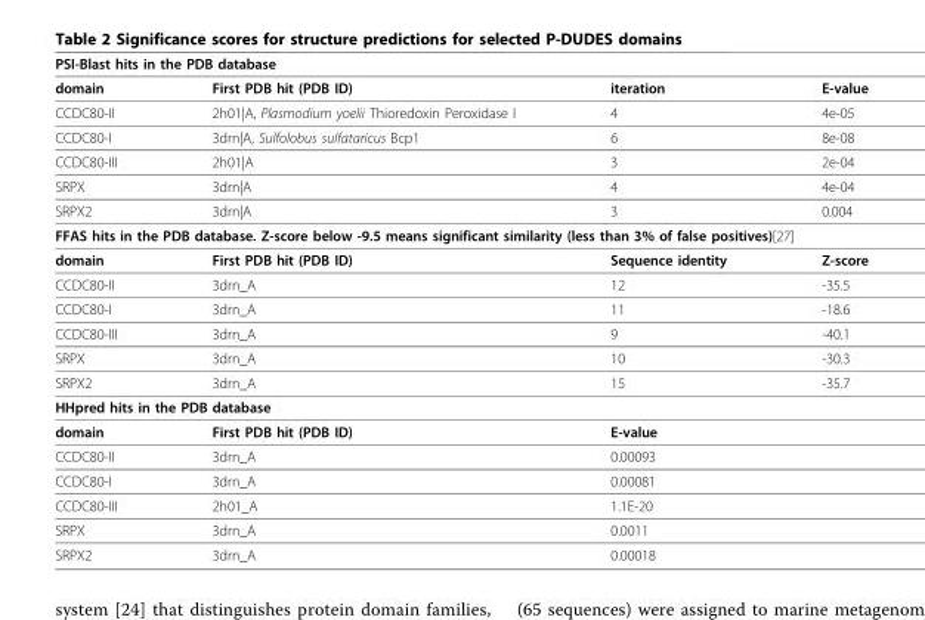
<table><thead><tr><td colspan="4">PSI-Blast hits in the PDB database</td></tr><tr><td>domain</td><td>First PDB hit (PDB ID)</td><td>iteration</td><td>E-value</td></tr></thead><tbody><tr><td>CCDC80-II</td><td>2h01|A, Plasmodium yoelii Thioredoxin Peroxidase I</td><td>4</td><td>4e-05</td></tr><tr><td>CCDC80-I</td><td>3drn|A, Sulfolobus sulfataricus Bcp1</td><td>6</td><td>8e-08</td></tr><tr><td>CCDC80-III</td><td>2h01|A</td><td>3</td><td>2e-04</td></tr><tr><td>SRPX</td><td>3drn|A</td><td>4</td><td>4e-04</td></tr><tr><td>SRPX2</td><td>3drn|A</td><td>3</td><td>0.004</td></tr><tr><td colspan="4">FFAS hits in the PDB database. Z-score below -9.5 means significant similarity (less than 3% of false positives)[27]</td></tr><tr><td>domain</td><td>First PDB hit (PDB ID)</td><td>Sequence identity</td><td>Z-score</td></tr><tr><td>CCDC80-II</td><td>3drn_A</td><td>12</td><td>-35.5</td></tr><tr><td>CCDC80-I</td><td>3drn_A</td><td>11</td><td>-18.6</td></tr><tr><td>CCDC80-III</td><td>3drn_A</td><td>9</td><td>-40.1</td></tr><tr><td>SRPX</td><td>3drn_A</td><td>10</td><td>-30.3</td></tr><tr><td>SRPX2</td><td>3drn_A</td><td>15</td><td>-35.7</td></tr><tr><td colspan="4">HHpred hits in the PDB database</td></tr><tr><td>domain</td><td>First PDB hit (PDB ID)</td><td>E-value</td><td></td></tr><tr><td>CCDC80-II</td><td>3drn_A</td><td>0.00093</td><td></td></tr><tr><td>CCDC80-I</td><td>3drn_A</td><td>0.00081</td><td></td></tr><tr><td>CCDC80-III</td><td>2h01_A</td><td>1.1E-20</td><td></td></tr><tr><td>SRPX</td><td>3drn_A</td><td>0.0011</td><td></td></tr><tr><td>SRPX2</td><td>3drn_A</td><td>0.00018</td><td></td></tr></tbody></table>